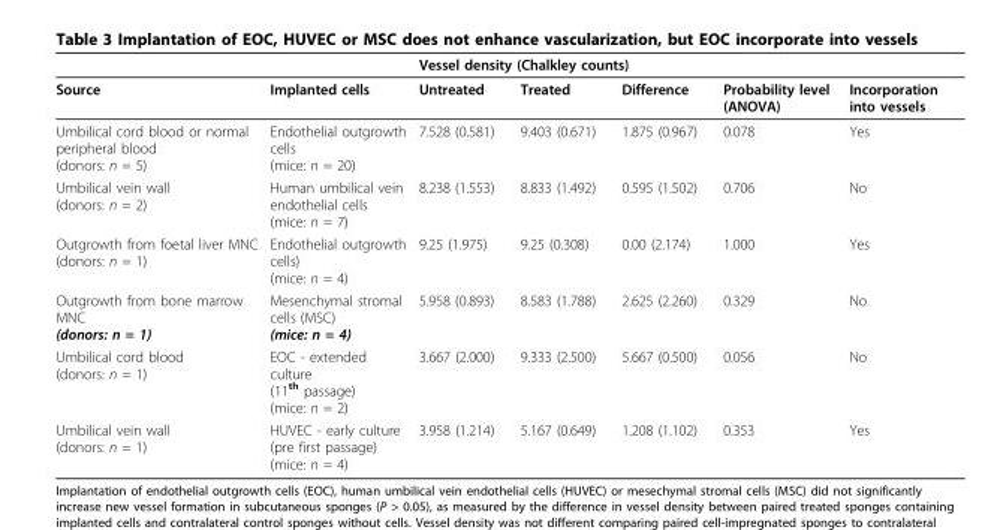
<table><thead><tr><td rowspan="2">Source</td><td rowspan="2">Implanted cells</td><td colspan="3">Vessel density (Chalkley counts)</td><td rowspan="2">Probability level (ANOVA)</td><td rowspan="2">Incorporation into vessels</td></tr><tr><td>Untreated</td><td>Treated</td><td>Difference</td></tr></thead><tbody><tr><td>Umbilical cord blood or normal peripheral blood (donors: n = 5)</td><td>Endothelial outgrowth cells (mice: n = 20)</td><td>7.528 (0.581)</td><td>9.403 (0.671)</td><td>1.875 (0.967)</td><td>0.078</td><td>Yes</td></tr><tr><td>Umbilical vein wall (donors: n = 2)</td><td>Human umbilical vein endothelial cells (mice: n = 7)</td><td>8.238 (1.553)</td><td>8.833 (1.492)</td><td>0.595 (1.502)</td><td>0.706</td><td>No</td></tr><tr><td>Outgrowth from foetal liver MNC (donors: n = 1)</td><td>Endothelial outgrowth cells) (mice: n = 4)</td><td>9.25 (1.975)</td><td>9.25 (0.308)</td><td>0.00 (2.174)</td><td>1.000</td><td>Yes</td></tr><tr><td>Outgrowth from bone marrow MNC (donors: n = 1)</td><td>Mesenchymal stromal cells (MSC) (mice: n = 4)</td><td>5.958 (0.893)</td><td>8.583 (1.788)</td><td>2.625 (2.260)</td><td>0.329</td><td>No</td></tr><tr><td>Umbilical cord blood (donors: n = 1)</td><td>EOC - extended culture (11<sup>th</sup> passage) (mice: n = 2)</td><td>3.667 (2.000)</td><td>9.333 (2.500)</td><td>5.667 (0.500)</td><td>0.056</td><td>No</td></tr><tr><td>Umbilical vein wall (donors: n = 1)</td><td>HUVEC - early culture (pre first passage) (mice: n = 4)</td><td>3.958 (1.214)</td><td>5.167 (0.649)</td><td>1.208 (1.102)</td><td>0.353</td><td>Yes</td></tr></tbody></table>